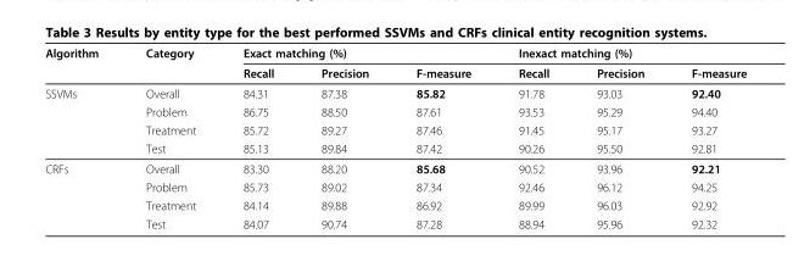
<table><thead><tr><td rowspan="2">Algorithm</td><td rowspan="2">Category</td><td colspan="3">Exact matching (%)</td><td colspan="3">Inexact matching (%)</td></tr><tr><td>Recall</td><td>Precision</td><td>F-measure</td><td>Recall</td><td>Precision</td><td>F-measure</td></tr></thead><tbody><tr><td rowspan="4">SSVMs</td><td>Overall</td><td>84.31</td><td>87.38</td><td>85.82</td><td>91.78</td><td>93.03</td><td>92.40</td></tr><tr><td>Problem</td><td>86.75</td><td>88.50</td><td>87.61</td><td>93.53</td><td>95.29</td><td>94.40</td></tr><tr><td>Treatment</td><td>85.72</td><td>89.27</td><td>87.46</td><td>91.45</td><td>95.17</td><td>93.27</td></tr><tr><td>Test</td><td>85.13</td><td>89.84</td><td>87.42</td><td>90.26</td><td>95.50</td><td>92.81</td></tr><tr><td rowspan="4">CRFs</td><td>Overall</td><td>83.30</td><td>88.20</td><td>85.68</td><td>90.52</td><td>93.96</td><td>92.21</td></tr><tr><td>Problem</td><td>85.73</td><td>89.02</td><td>87.34</td><td>92.46</td><td>96.12</td><td>94.25</td></tr><tr><td>Treatment</td><td>84.14</td><td>89.88</td><td>86.92</td><td>89.99</td><td>96.03</td><td>92.92</td></tr><tr><td>Test</td><td>84.07</td><td>90.74</td><td>87.28</td><td>88.94</td><td>95.96</td><td>92.32</td></tr></tbody></table>